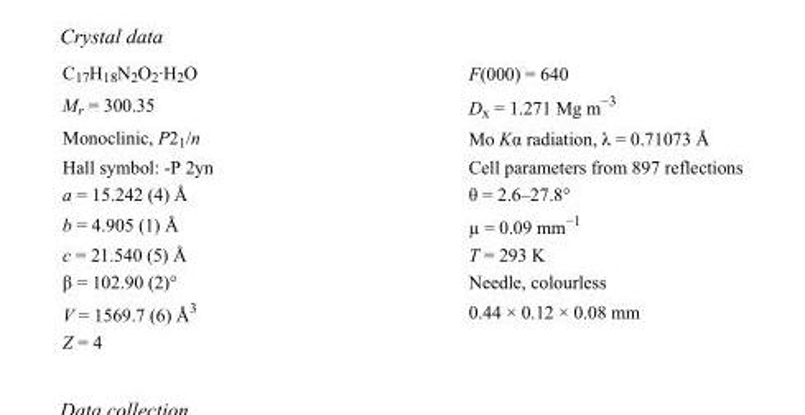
<table><tbody><tr><td>C<sub>17</sub>H<sub>18</sub>N<sub>2</sub>O<sub>2</sub>·H<sub>2</sub>O</td><td>F(000) = 640</td></tr><tr><td>M<sub>r</sub> = 300.35</td><td>D<sub>x</sub> = 1.271 Mg m<sup>−3</sup></td></tr><tr><td>Monoclinic, P2<sub>1</sub>/n</td><td>Mo Kα radiation, λ = 0.71073 Å</td></tr><tr><td>Hall symbol: -P 2yn</td><td>Cell parameters from 897 reflections</td></tr><tr><td>a = 15.242 (4) Å</td><td>θ = 2.6–27.8°</td></tr><tr><td>b = 4.905 (1) Å</td><td>µ = 0.09 mm<sup>−1</sup></td></tr><tr><td>c = 21.540 (5) Å</td><td>T = 293 K</td></tr><tr><td>β = 102.90 (2)°</td><td>Needle, colourless</td></tr><tr><td>V = 1569.7 (6) Å<sup>3</sup></td><td>0.44 × 0.12 × 0.08 mm</td></tr><tr><td>Z = 4</td><td></td></tr></tbody></table>